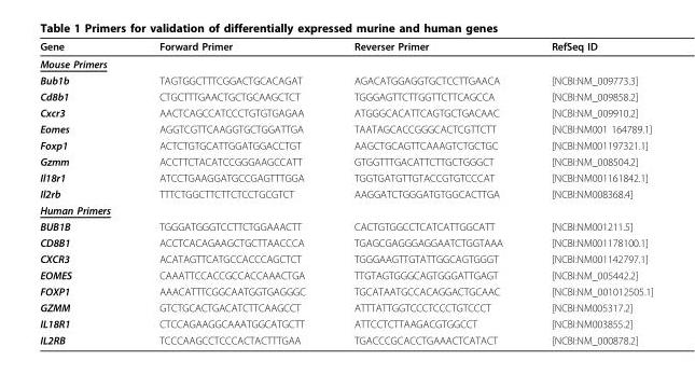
<table><thead><tr><td>Gene</td><td>Forward Primer</td><td>Reverser Primer</td><td>RefSeq ID</td></tr></thead><tbody><tr><td colspan="4">Mouse Primers</td></tr><tr><td>Bub1b</td><td>TAGTGGCTTTCGGACTGCACAGAT</td><td>AGACATGGAGGTGCTCCTTGAACA</td><td>[NCBI:NM_009773.3]</td></tr><tr><td>Cd8b1</td><td>CTGCTTTGAACTGCTGCAAGCTCT</td><td>TGGGAGTTCTTGGTTCTTCAGCCA</td><td>[NCBI:NM_009858.2]</td></tr><tr><td>Cxcr3</td><td>AACTCAGCCATCCCTGTGTGAGAA</td><td>ATGGGCACATTCAGTGCTGACAAC</td><td>[NCBI:NM_009910.2]</td></tr><tr><td>Eomes</td><td>AGGTCGTTCAAGGTGCTGGATTGA</td><td>TAATAGCACCGGGCACTCGTTCTT</td><td>[NCBI:NM001 164789.1]</td></tr><tr><td>Foxp1</td><td>ACTCTGTGCATTGGATGGACCTGT</td><td>AAGCTGCAGTTCAAAGTCTGCTGC</td><td>[NCBI:NM001197321.1]</td></tr><tr><td>Gzmm</td><td>ACCTTCTACATCCGGGAAGCCATT</td><td>GTGGTTTGACATTCTTGCTGGGCT</td><td>[NCBI:NM_008504.2]</td></tr><tr><td>Il18r1</td><td>ATCCTGAAGGATGCCGAGTTTGGA</td><td>TGGTGATGTTGTACCGTGTCCCAT</td><td>[NCBI:NM001161842.1]</td></tr><tr><td>Il2rb</td><td>TTTCTGGCTTCTTCTCCTGCGTCT</td><td>AAGGATCTGGGATGTGGCACTTGA</td><td>[NCBI:NM008368.4]</td></tr><tr><td colspan="4">Human Primers</td></tr><tr><td>BUB1B</td><td>TGGGATGGGTCCTTCTGGAAACTT</td><td>CACTGTGGCCTCATCATTGGCATT</td><td>[NCBI:NM001211.5]</td></tr><tr><td>CD8B1</td><td>ACCTCACAGAAGCTGCTTAACCCA</td><td>TGAGCGAGGGAGGAATCTGGTAAA</td><td>[NCBI:NM001178100.1]</td></tr><tr><td>CXCR3</td><td>ACATAGTTCATGCCACCCAGCTCT</td><td>TGGGAAGTTGTATTGGCAGTGGGT</td><td>[NCBI:NM001142797.1]</td></tr><tr><td>EOMES</td><td>CAAATTCCACCGCCACCAAACTGA</td><td>TTGTAGTGGGCAGTGGGATTGAGT</td><td>[NCBI:NM_005442.2]</td></tr><tr><td>FOXP1</td><td>AAACATTTCGGCAATGGTGAGGGC</td><td>TGCATAATGCCACAGGACTGCAAC</td><td>[NCBI:NM_001012505.1]</td></tr><tr><td>GZMM</td><td>GTCTGCACTGACATCTTCAAGCCT</td><td>ATTTATTGGTCCCTCCCTGTCCCT</td><td>[NCBI:NM005317.2]</td></tr><tr><td>IL18R1</td><td>CTCCAGAAGGCAAATGGCATGCTT</td><td>ATTCCTCTTAAGACGTGGCCT</td><td>[NCBI:NM003855.2]</td></tr><tr><td>IL2RB</td><td>TCCCAAGCCTCCCACTACTTTGAA</td><td>TGACCCGCACCTGAAACTCATACT</td><td>[NCBI:NM_000878.2]</td></tr></tbody></table>